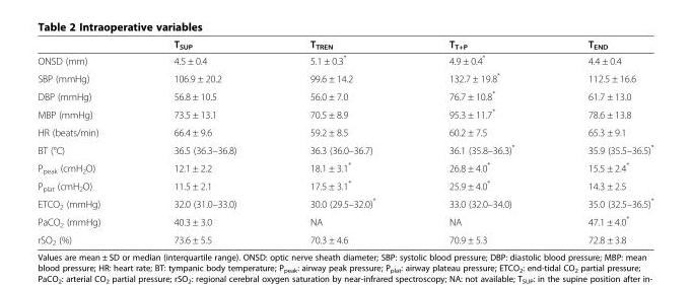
<table><thead><tr><td></td><td>T<sub>SUP</sub></td><td>T<sub>TREN</sub></td><td>T<sub>T+P</sub></td><td>T<sub>END</sub></td></tr></thead><tbody><tr><td>ONSD (mm)</td><td>4.5 ± 0.4</td><td>5.1 ± 0.3*</td><td>4.9 ± 0.4*</td><td>4.4 ± 0.4</td></tr><tr><td>SBP (mmHg)</td><td>106.9 ± 20.2</td><td>99.6 ± 14.2</td><td>132.7 ± 19.8*</td><td>112.5 ± 16.6</td></tr><tr><td>DBP (mmHg)</td><td>56.8 ± 10.5</td><td>56.0 ± 7.0</td><td>76.7 ± 10.8*</td><td>61.7 ± 13.0</td></tr><tr><td>MBP (mmHg)</td><td>73.5 ± 13.1</td><td>70.5 ± 8.9</td><td>95.3 ± 11.7*</td><td>78.6 ± 13.8</td></tr><tr><td>HR (beats/min)</td><td>66.4 ± 9.6</td><td>59.2 ± 8.5</td><td>60.2 ± 7.5</td><td>65.3 ± 9.1</td></tr><tr><td>BT (°C)</td><td>36.5 (36.3–36.8)</td><td>36.3 (36.0–36.7)</td><td>36.1 (35.8–36.3)*</td><td>35.9 (35.5–36.5)*</td></tr><tr><td>P<sub>peak</sub> (cmH<sub>2</sub>O)</td><td>12.1 ± 2.2</td><td>18.1 ± 3.1*</td><td>26.8 ± 4.0*</td><td>15.5 ± 2.4*</td></tr><tr><td>P<sub>plat</sub> (cmH<sub>2</sub>O)</td><td>11.5 ± 2.1</td><td>17.5 ± 3.1*</td><td>25.9 ± 4.0*</td><td>14.3 ± 2.5</td></tr><tr><td>ETCO<sub>2</sub> (mmHg)</td><td>32.0 (31.0–33.0)</td><td>30.0 (29.5–32.0)*</td><td>33.0 (32.0–34.0)</td><td>35.0 (32.5–36.5)*</td></tr><tr><td>PaCO<sub>2</sub> (mmHg)</td><td>40.3 ± 3.0</td><td>NA</td><td>NA</td><td>47.1 ± 4.0*</td></tr><tr><td>rSO<sub>2</sub> (%)</td><td>73.6 ± 5.5</td><td>70.3 ± 4.6</td><td>70.9 ± 5.3</td><td>72.8 ± 3.8</td></tr></tbody></table>